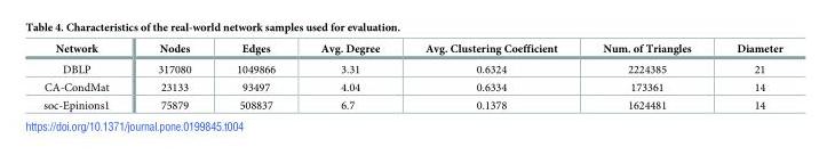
<table><thead><tr><td>Network</td><td>Nodes</td><td>Edges</td><td>Avg. Degree</td><td>Avg. Clustering Coefficient</td><td>Num. of Triangles</td><td>Diameter</td></tr></thead><tbody><tr><td>DBLP</td><td>317080</td><td>1049866</td><td>3.31</td><td>0.6324</td><td>2224385</td><td>21</td></tr><tr><td>CA-CondMat</td><td>23133</td><td>93497</td><td>4.04</td><td>0.6334</td><td>173361</td><td>14</td></tr><tr><td>soc-Epinions1</td><td>75879</td><td>508837</td><td>6.7</td><td>0.1378</td><td>1624481</td><td>14</td></tr></tbody></table>